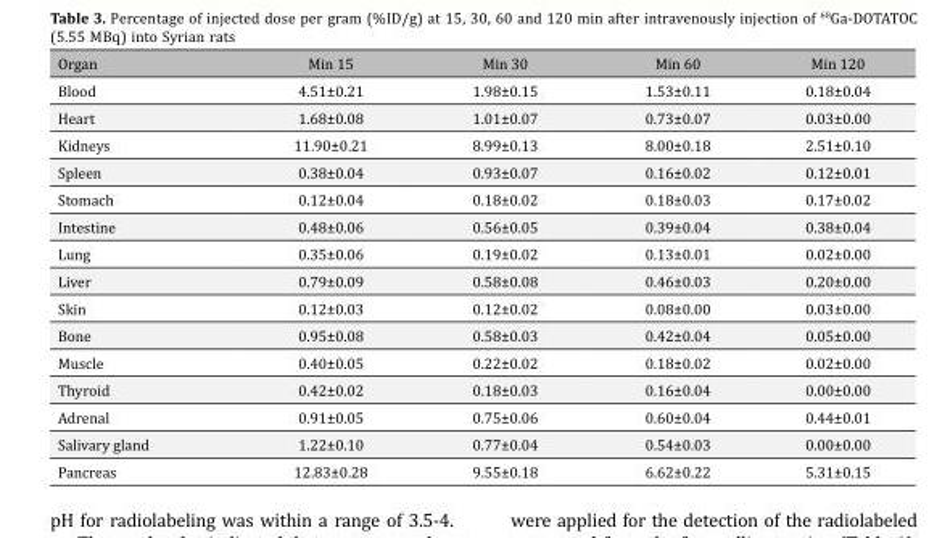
<table><thead><tr><td>Organ</td><td>Min 15</td><td>Min 30</td><td>Min 60</td><td>Min 120</td></tr></thead><tbody><tr><td>Blood</td><td>4.51±0.21</td><td>1.98±0.15</td><td>1.53±0.11</td><td>0.18±0.04</td></tr><tr><td>Heart</td><td>1.68±0.08</td><td>1.01±0.07</td><td>0.73±0.07</td><td>0.03±0.00</td></tr><tr><td>Kidneys</td><td>11.90±0.21</td><td>8.99±0.13</td><td>8.00±0.18</td><td>2.51±0.10</td></tr><tr><td>Spleen</td><td>0.38±0.04</td><td>0.93±0.07</td><td>0.16±0.02</td><td>0.12±0.01</td></tr><tr><td>Stomach</td><td>0.12±0.04</td><td>0.18±0.02</td><td>0.18±0.03</td><td>0.17±0.02</td></tr><tr><td>Intestine</td><td>0.48±0.06</td><td>0.56±0.05</td><td>0.39±0.04</td><td>0.38±0.04</td></tr><tr><td>Lung</td><td>0.35±0.06</td><td>0.19±0.02</td><td>0.13±0.01</td><td>0.02±0.00</td></tr><tr><td>Liver</td><td>0.79±0.09</td><td>0.58±0.08</td><td>0.46±0.03</td><td>0.20±0.00</td></tr><tr><td>Skin</td><td>0.12±0.03</td><td>0.12±0.02</td><td>0.08±0.00</td><td>0.03±0.00</td></tr><tr><td>Bone</td><td>0.95±0.08</td><td>0.58±0.03</td><td>0.42±0.04</td><td>0.05±0.00</td></tr><tr><td>Muscle</td><td>0.40±0.05</td><td>0.22±0.02</td><td>0.18±0.02</td><td>0.02±0.00</td></tr><tr><td>Thyroid</td><td>0.42±0.02</td><td>0.18±0.03</td><td>0.16±0.04</td><td>0.00±0.00</td></tr><tr><td>Adrenal</td><td>0.91±0.05</td><td>0.75±0.06</td><td>0.60±0.04</td><td>0.44±0.01</td></tr><tr><td>Salivary gland</td><td>1.22±0.10</td><td>0.77±0.04</td><td>0.54±0.03</td><td>0.00±0.00</td></tr><tr><td>Pancreas</td><td>12.83±0.28</td><td>9.55±0.18</td><td>6.62±0.22</td><td>5.31±0.15</td></tr></tbody></table>